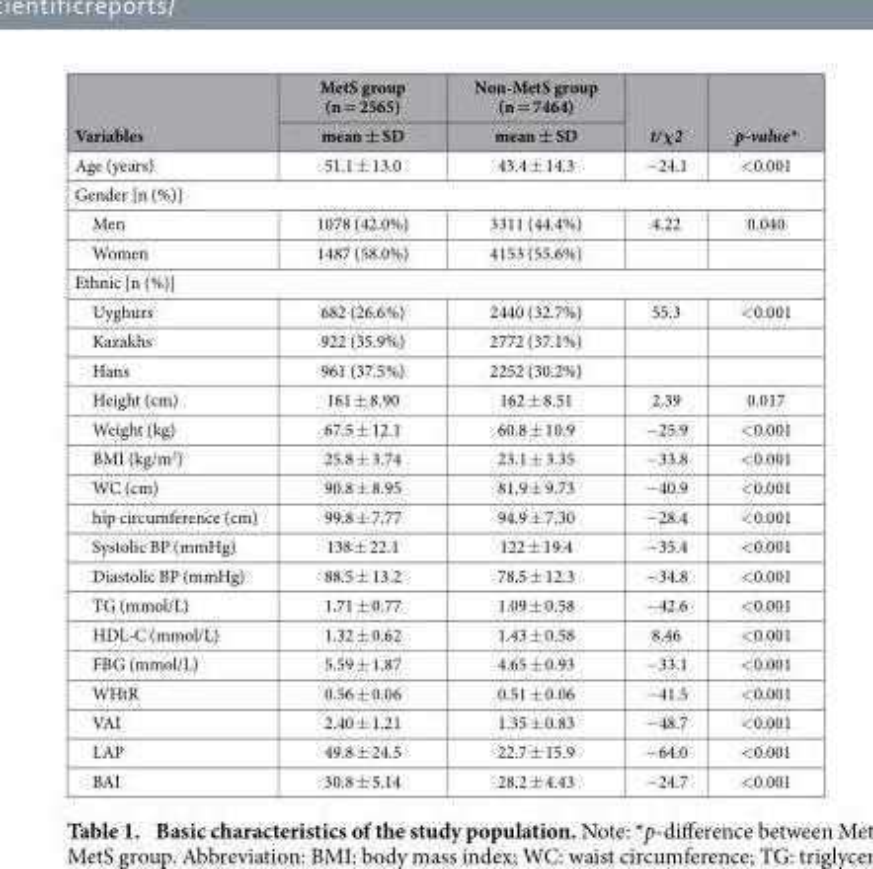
<table><thead><tr><td rowspan="2">Variables</td><td rowspan="2">MetS group (n = 2565) mean ± SD</td><td rowspan="2">Non-MetS group (n = 7464) mean ± SD</td><td rowspan="2">t/χ2</td><td rowspan="2">p-value*</td></tr><tr></tr></thead><tbody><tr><td>Age (years)</td><td>51.1 ± 13.0</td><td>43.4 ± 14.3</td><td>− 24.1</td><td>&lt; 0.001</td></tr><tr><td colspan="5">Gender [n (%)]</td></tr><tr><td>Men</td><td>1078 (42.0%)</td><td>3311 (44.4%)</td><td>4.22</td><td>0.040</td></tr><tr><td>Women</td><td>1487 (58.0%)</td><td>4153 (55.6%)</td><td></td><td></td></tr><tr><td colspan="5">Ethnic [n (%)]</td></tr><tr><td>Uyghurs</td><td>682 (26.6%)</td><td>2440 (32.7%)</td><td>55.3</td><td>&lt; 0.001</td></tr><tr><td>Kazakhs</td><td>922 (35.9%)</td><td>2772 (37.1%)</td><td></td><td></td></tr><tr><td>Hans</td><td>961 (37.5%)</td><td>2252 (30.2%)</td><td></td><td></td></tr><tr><td>Height (cm)</td><td>161 ± 8.90</td><td>162 ± 8.51</td><td>2.39</td><td>0.017</td></tr><tr><td>Weight (kg)</td><td>67.5 ± 12.1</td><td>60.8 ± 10.9</td><td>− 25.9</td><td>&lt; 0.001</td></tr><tr><td>BMI (kg/m<sup>2</sup>)</td><td>25.8 ± 3.74</td><td>23.1 ± 3.35</td><td>− 33.8</td><td>&lt; 0.001</td></tr><tr><td>WC (cm)</td><td>90.8 ± 8.95</td><td>81.9 ± 9.73</td><td>− 40.9</td><td>&lt; 0.001</td></tr><tr><td>hip circumference (cm)</td><td>99.8 ± 7.77</td><td>94.9 ± 7.30</td><td>− 28.4</td><td>&lt; 0.001</td></tr><tr><td>Systolic BP (mmHg)</td><td>138 ± 22.1</td><td>122 ± 19.4</td><td>− 35.4</td><td>&lt; 0.001</td></tr><tr><td>Diastolic BP (mmHg)</td><td>88.5 ± 13.2</td><td>78.5 ± 12.3</td><td>− 34.8</td><td>&lt; 0.001</td></tr><tr><td>TG (mmol/L)</td><td>1.71 ± 0.77</td><td>1.09 ± 0.58</td><td>− 42.6</td><td>&lt; 0.001</td></tr><tr><td>HDL-C (mmol/L)</td><td>1.32 ± 0.62</td><td>1.43 ± 0.58</td><td>8.46</td><td>&lt; 0.001</td></tr><tr><td>FBG (mmol/L)</td><td>5.59 ± 1.87</td><td>4.65 ± 0.93</td><td>− 33.1</td><td>&lt; 0.001</td></tr><tr><td>WHtR</td><td>0.56 ± 0.06</td><td>0.51 ± 0.06</td><td>− 41.5</td><td>&lt; 0.001</td></tr><tr><td>VAI</td><td>2.40 ± 1.21</td><td>1.35 ± 0.83</td><td>− 48.7</td><td>&lt; 0.001</td></tr><tr><td>LAP</td><td>49.8 ± 24.5</td><td>22.7 ± 15.9</td><td>− 64.0</td><td>&lt; 0.001</td></tr><tr><td>BAI</td><td>30.8 ± 5.14</td><td>28.2 ± 4.43</td><td>− 24.7</td><td>&lt; 0.001</td></tr></tbody></table>